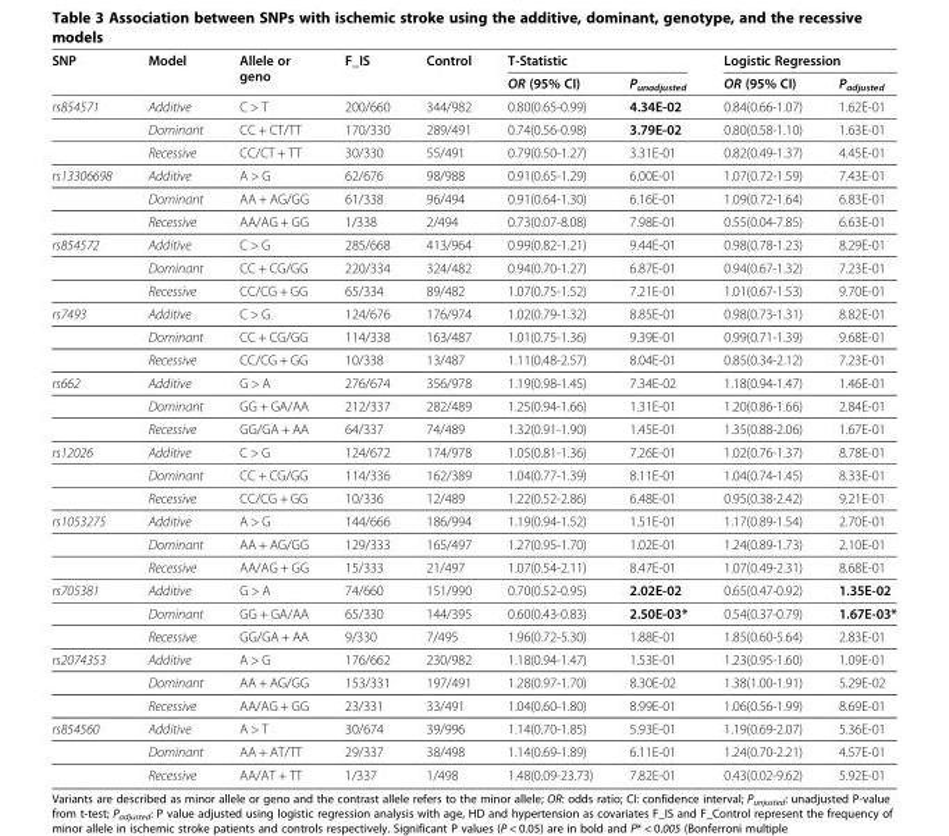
<table><thead><tr><td rowspan="2">SNP</td><td rowspan="2">Model</td><td rowspan="2">Allele or geno</td><td rowspan="2">F_IS</td><td rowspan="2">Control</td><td colspan="2">T-Statistic</td><td colspan="2">Logistic Regression</td></tr><tr><td>OR (95% CI)</td><td>P<sub>unadjusted</sub></td><td>OR (95% CI)</td><td>P<sub>adjusted</sub></td></tr></thead><tbody><tr><td rowspan="3">rs854571</td><td>Additive</td><td>C &gt; T</td><td>200/660</td><td>344/982</td><td>0.80(0.65-0.99)</td><td>4.34E-02</td><td>0.84(0.66-1.07)</td><td>1.62E-01</td></tr><tr><td>Dominant</td><td>CC + CT/TT</td><td>170/330</td><td>289/491</td><td>0.74(0.56-0.98)</td><td>3.79E-02</td><td>0.80(0.58-1.10)</td><td>1.63E-01</td></tr><tr><td>Recessive</td><td>CC/CT + TT</td><td>30/330</td><td>55/491</td><td>0.79(0.50-1.27)</td><td>3.31E-01</td><td>0.82(0.49-1.37)</td><td>4.45E-01</td></tr><tr><td rowspan="3">rs13306698</td><td>Additive</td><td>A &gt; G</td><td>62/676</td><td>98/988</td><td>0.91(0.65-1.29)</td><td>6.00E-01</td><td>1.07(0.72-1.59)</td><td>7.43E-01</td></tr><tr><td>Dominant</td><td>AA + AG/GG</td><td>61/338</td><td>96/494</td><td>0.91(0.64-1.30)</td><td>6.16E-01</td><td>1.09(0.72-1.64)</td><td>6.83E-01</td></tr><tr><td>Recessive</td><td>AA/AG + GG</td><td>1/338</td><td>2/494</td><td>0.73(0.07-8.08)</td><td>7.98E-01</td><td>0.55(0.04-7.85)</td><td>6.63E-01</td></tr><tr><td rowspan="3">rs854572</td><td>Additive</td><td>C &gt; G</td><td>285/668</td><td>413/964</td><td>0.99(0.82-1.21)</td><td>9.44E-01</td><td>0.98(0.78-1.23)</td><td>8.29E-01</td></tr><tr><td>Dominant</td><td>CC + CG/GG</td><td>220/334</td><td>324/482</td><td>0.94(0.70-1.27)</td><td>6.87E-01</td><td>0.94(0.67-1.32)</td><td>7.23E-01</td></tr><tr><td>Recessive</td><td>CC/CG + GG</td><td>65/334</td><td>89/482</td><td>1.07(0.75-1.52)</td><td>7.21E-01</td><td>1.01(0.67-1.53)</td><td>9.70E-01</td></tr><tr><td rowspan="3">rs7493</td><td>Additive</td><td>C &gt; G</td><td>124/676</td><td>176/974</td><td>1.02(0.79-1.32)</td><td>8.85E-01</td><td>0.98(0.73-1.31)</td><td>8.82E-01</td></tr><tr><td>Dominant</td><td>CC + CG/GG</td><td>114/338</td><td>163/487</td><td>1.01(0.75-1.36)</td><td>9.39E-01</td><td>0.99(0.71-1.39)</td><td>9.68E-01</td></tr><tr><td>Recessive</td><td>CC/CG + GG</td><td>10/338</td><td>13/487</td><td>1.11(0.48-2.57)</td><td>8.04E-01</td><td>0.85(0.34-2.12)</td><td>7.23E-01</td></tr><tr><td rowspan="3">rs662</td><td>Additive</td><td>G &gt; A</td><td>276/674</td><td>356/978</td><td>1.19(0.98-1.45)</td><td>7.34E-02</td><td>1.18(0.94-1.47)</td><td>1.46E-01</td></tr><tr><td>Dominant</td><td>GG + GA/AA</td><td>212/337</td><td>282/489</td><td>1.25(0.94-1.66)</td><td>1.31E-01</td><td>1.20(0.86-1.66)</td><td>2.84E-01</td></tr><tr><td>Recessive</td><td>GG/GA + AA</td><td>64/337</td><td>74/489</td><td>1.32(0.91-1.90)</td><td>1.45E-01</td><td>1.35(0.88-2.06)</td><td>1.67E-01</td></tr><tr><td rowspan="3">rs12026</td><td>Additive</td><td>C &gt; G</td><td>124/672</td><td>174/978</td><td>1.05(0.81-1.36)</td><td>7.26E-01</td><td>1.02(0.76-1.37)</td><td>8.78E-01</td></tr><tr><td>Dominant</td><td>CC + CG/GG</td><td>114/336</td><td>162/389</td><td>1.04(0.77-1.39)</td><td>8.11E-01</td><td>1.04(0.74-1.45)</td><td>8.33E-01</td></tr><tr><td>Recessive</td><td>CC/CG + GG</td><td>10/336</td><td>12/489</td><td>1.22(0.52-2.86)</td><td>6.48E-01</td><td>0.95(0.38-2.42)</td><td>9.21E-01</td></tr><tr><td rowspan="3">rs1053275</td><td>Additive</td><td>A &gt; G</td><td>144/666</td><td>186/994</td><td>1.19(0.94-1.52)</td><td>1.51E-01</td><td>1.17(0.89-1.54)</td><td>2.70E-01</td></tr><tr><td>Dominant</td><td>AA + AG/GG</td><td>129/333</td><td>165/497</td><td>1.27(0.95-1.70)</td><td>1.02E-01</td><td>1.24(0.89-1.73)</td><td>2.10E-01</td></tr><tr><td>Recessive</td><td>AA/AG + GG</td><td>15/333</td><td>21/497</td><td>1.07(0.54-2.11)</td><td>8.47E-01</td><td>1.07(0.49-2.31)</td><td>8.68E-01</td></tr><tr><td rowspan="3">rs705381</td><td>Additive</td><td>G &gt; A</td><td>74/660</td><td>151/990</td><td>0.70(0.52-0.95)</td><td>2.02E-02</td><td>0.65(0.47-0.92)</td><td>1.35E-02</td></tr><tr><td>Dominant</td><td>GG + GA/AA</td><td>65/330</td><td>144/395</td><td>0.60(0.43-0.83)</td><td>2.50E-03*</td><td>0.54(0.37-0.79)</td><td>1.67E-03*</td></tr><tr><td>Recessive</td><td>GG/GA + AA</td><td>9/330</td><td>7/495</td><td>1.96(0.72-5.30)</td><td>1.88E-01</td><td>1.85(0.60-5.64)</td><td>2.83E-01</td></tr><tr><td rowspan="3">rs2074353</td><td>Additive</td><td>A &gt; G</td><td>176/662</td><td>230/982</td><td>1.18(0.94-1.47)</td><td>1.53E-01</td><td>1.23(0.95-1.60)</td><td>1.09E-01</td></tr><tr><td>Dominant</td><td>AA + AG/GG</td><td>153/331</td><td>197/491</td><td>1.28(0.97-1.70)</td><td>8.30E-02</td><td>1.38(1.00-1.91)</td><td>5.29E-02</td></tr><tr><td>Recessive</td><td>AA/AG + GG</td><td>23/331</td><td>33/491</td><td>1.04(0.60-1.80)</td><td>8.99E-01</td><td>1.06(0.56-1.99)</td><td>8.69E-01</td></tr><tr><td rowspan="3">rs854560</td><td>Additive</td><td>A &gt; T</td><td>30/674</td><td>39/996</td><td>1.14(0.70-1.85)</td><td>5.93E-01</td><td>1.19(0.69-2.07)</td><td>5.36E-01</td></tr><tr><td>Dominant</td><td>AA + AT/TT</td><td>29/337</td><td>38/498</td><td>1.14(0.69-1.89)</td><td>6.11E-01</td><td>1.24(0.70-2.21)</td><td>4.57E-01</td></tr><tr><td>Recessive</td><td>AA/AT + TT</td><td>1/337</td><td>1/498</td><td>1.48(0.09-23.73)</td><td>7.82E-01</td><td>0.43(0.02-9.62)</td><td>5.92E-01</td></tr></tbody></table>